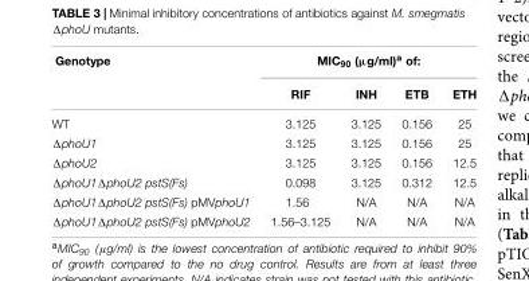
<table><thead><tr><td rowspan="2">Genotype</td><td colspan="4">MIC<sub>90</sub> (µg/ml)<sup>a</sup> of:</td></tr><tr><td>RIF</td><td>INH</td><td>ETB</td><td>ETH</td></tr></thead><tbody><tr><td>WT</td><td>3.125</td><td>3.125</td><td>0.156</td><td>25</td></tr><tr><td>ΔphoU1</td><td>3.125</td><td>3.125</td><td>0.156</td><td>25</td></tr><tr><td>ΔphoU2</td><td>3.125</td><td>3.125</td><td>0.156</td><td>12.5</td></tr><tr><td>ΔphoU1ΔphoU2 pstS(Fs)</td><td>0.098</td><td>3.125</td><td>0.312</td><td>12.5</td></tr><tr><td>ΔphoU1ΔphoU2 pstS(Fs) pMVphoU1</td><td>1.56</td><td>N/A</td><td>N/A</td><td>N/A</td></tr><tr><td>ΔphoU1ΔphoU2 pstS(Fs) pMVphoU2</td><td>1.56–3.125</td><td>N/A</td><td>N/A</td><td>N/A</td></tr></tbody></table>